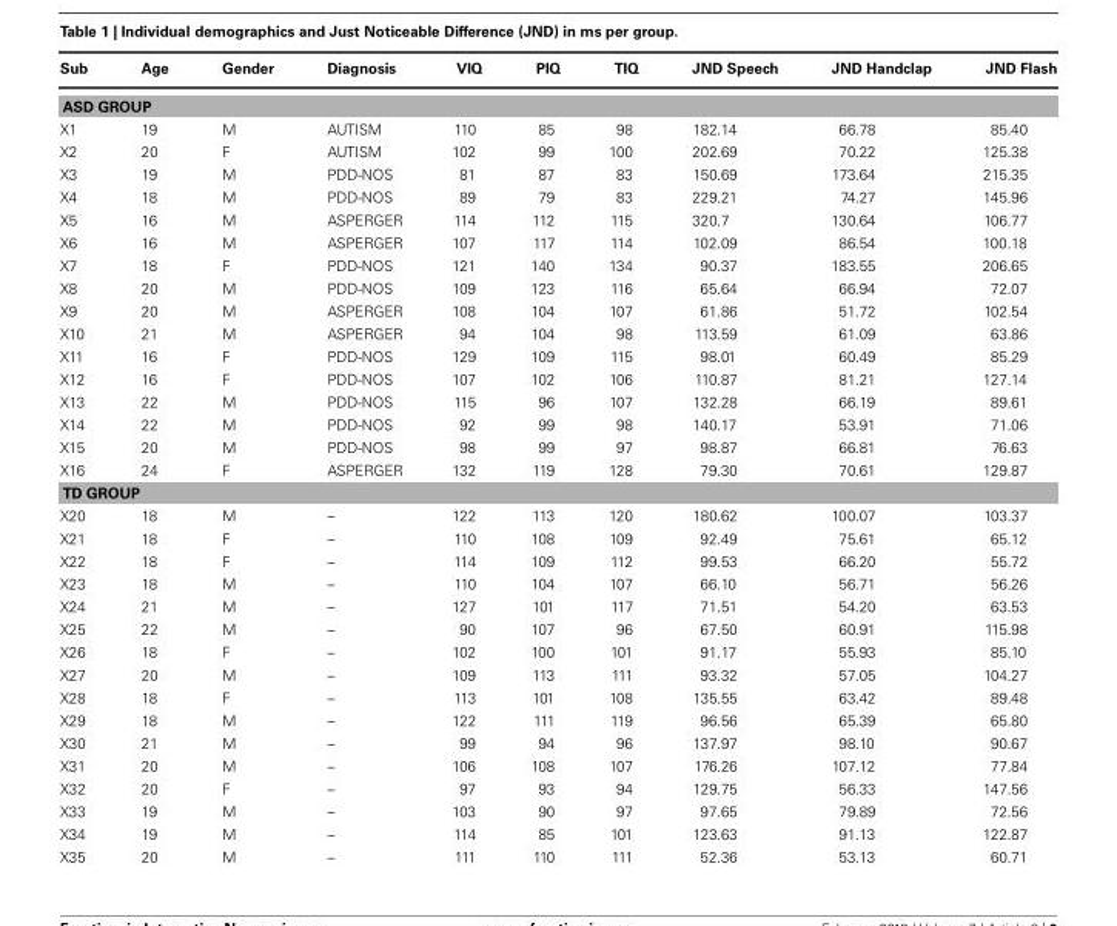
<table><thead><tr><td>Sub</td><td>Age</td><td>Gender</td><td>Diagnosis</td><td>VIQ</td><td>PIQ</td><td>TIQ</td><td>JND Speech</td><td>JND Handclap</td><td>JND Flash</td></tr></thead><tbody><tr><td colspan="10">ASD GROUP</td></tr><tr><td>X1</td><td>19</td><td>M</td><td>AUTISM</td><td>110</td><td>85</td><td>98</td><td>182.14</td><td>66.78</td><td>85.40</td></tr><tr><td>X2</td><td>20</td><td>F</td><td>AUTISM</td><td>102</td><td>99</td><td>100</td><td>202.69</td><td>70.22</td><td>125.38</td></tr><tr><td>X3</td><td>19</td><td>M</td><td>PDD-NOS</td><td>81</td><td>87</td><td>83</td><td>150.69</td><td>173.64</td><td>215.35</td></tr><tr><td>X4</td><td>18</td><td>M</td><td>PDD-NOS</td><td>89</td><td>79</td><td>83</td><td>229.21</td><td>74.27</td><td>145.96</td></tr><tr><td>X5</td><td>16</td><td>M</td><td>ASPERGER</td><td>114</td><td>112</td><td>115</td><td>320.7</td><td>130.64</td><td>106.77</td></tr><tr><td>X6</td><td>16</td><td>M</td><td>ASPERGER</td><td>107</td><td>117</td><td>114</td><td>102.09</td><td>86.54</td><td>100.18</td></tr><tr><td>X7</td><td>18</td><td>F</td><td>PDD-NOS</td><td>121</td><td>140</td><td>134</td><td>90.37</td><td>183.55</td><td>206.65</td></tr><tr><td>X8</td><td>20</td><td>M</td><td>PDD-NOS</td><td>109</td><td>123</td><td>116</td><td>65.64</td><td>66.94</td><td>72.07</td></tr><tr><td>X9</td><td>20</td><td>M</td><td>ASPERGER</td><td>108</td><td>104</td><td>107</td><td>61.86</td><td>51.72</td><td>102.54</td></tr><tr><td>X10</td><td>21</td><td>M</td><td>ASPERGER</td><td>94</td><td>104</td><td>98</td><td>113.59</td><td>61.09</td><td>63.86</td></tr><tr><td>X11</td><td>16</td><td>F</td><td>PDD-NOS</td><td>129</td><td>109</td><td>115</td><td>98.01</td><td>60.49</td><td>85.29</td></tr><tr><td>X12</td><td>16</td><td>F</td><td>PDD-NOS</td><td>107</td><td>102</td><td>106</td><td>110.87</td><td>81.21</td><td>127.14</td></tr><tr><td>X13</td><td>22</td><td>M</td><td>PDD-NOS</td><td>115</td><td>96</td><td>107</td><td>132.28</td><td>66.19</td><td>89.61</td></tr><tr><td>X14</td><td>22</td><td>M</td><td>PDD-NOS</td><td>92</td><td>99</td><td>98</td><td>140.17</td><td>53.91</td><td>71.06</td></tr><tr><td>X15</td><td>20</td><td>M</td><td>PDD-NOS</td><td>98</td><td>99</td><td>97</td><td>98.87</td><td>66.81</td><td>76.63</td></tr><tr><td>X16</td><td>24</td><td>F</td><td>ASPERGER</td><td>132</td><td>119</td><td>128</td><td>79.30</td><td>70.61</td><td>129.87</td></tr><tr><td colspan="10">TD GROUP</td></tr><tr><td>X20</td><td>18</td><td>M</td><td>–</td><td>122</td><td>113</td><td>120</td><td>180.62</td><td>100.07</td><td>103.37</td></tr><tr><td>X21</td><td>18</td><td>F</td><td>–</td><td>110</td><td>108</td><td>109</td><td>92.49</td><td>75.61</td><td>65.12</td></tr><tr><td>X22</td><td>18</td><td>F</td><td>–</td><td>114</td><td>109</td><td>112</td><td>99.53</td><td>66.20</td><td>55.72</td></tr><tr><td>X23</td><td>18</td><td>M</td><td>–</td><td>110</td><td>104</td><td>107</td><td>66.10</td><td>56.71</td><td>56.26</td></tr><tr><td>X24</td><td>21</td><td>M</td><td>–</td><td>127</td><td>101</td><td>117</td><td>71.51</td><td>54.20</td><td>63.53</td></tr><tr><td>X25</td><td>22</td><td>M</td><td>–</td><td>90</td><td>107</td><td>96</td><td>67.50</td><td>60.91</td><td>115.98</td></tr><tr><td>X26</td><td>18</td><td>F</td><td>–</td><td>102</td><td>100</td><td>101</td><td>91.17</td><td>55.93</td><td>85.10</td></tr><tr><td>X27</td><td>20</td><td>M</td><td>–</td><td>109</td><td>113</td><td>111</td><td>93.32</td><td>57.05</td><td>104.27</td></tr><tr><td>X28</td><td>18</td><td>F</td><td>–</td><td>113</td><td>101</td><td>108</td><td>135.55</td><td>63.42</td><td>89.48</td></tr><tr><td>X29</td><td>18</td><td>M</td><td>–</td><td>122</td><td>111</td><td>119</td><td>96.56</td><td>65.39</td><td>65.80</td></tr><tr><td>X30</td><td>21</td><td>M</td><td>–</td><td>99</td><td>94</td><td>96</td><td>137.97</td><td>98.10</td><td>90.67</td></tr><tr><td>X31</td><td>20</td><td>M</td><td>–</td><td>106</td><td>108</td><td>107</td><td>176.26</td><td>107.12</td><td>77.84</td></tr><tr><td>X32</td><td>20</td><td>F</td><td>–</td><td>97</td><td>93</td><td>94</td><td>129.75</td><td>56.33</td><td>147.56</td></tr><tr><td>X33</td><td>19</td><td>M</td><td>–</td><td>103</td><td>90</td><td>97</td><td>97.65</td><td>79.89</td><td>72.56</td></tr><tr><td>X34</td><td>19</td><td>M</td><td>–</td><td>114</td><td>85</td><td>101</td><td>123.63</td><td>91.13</td><td>122.87</td></tr><tr><td>X35</td><td>20</td><td>M</td><td>–</td><td>111</td><td>110</td><td>111</td><td>52.36</td><td>53.13</td><td>60.71</td></tr></tbody></table>